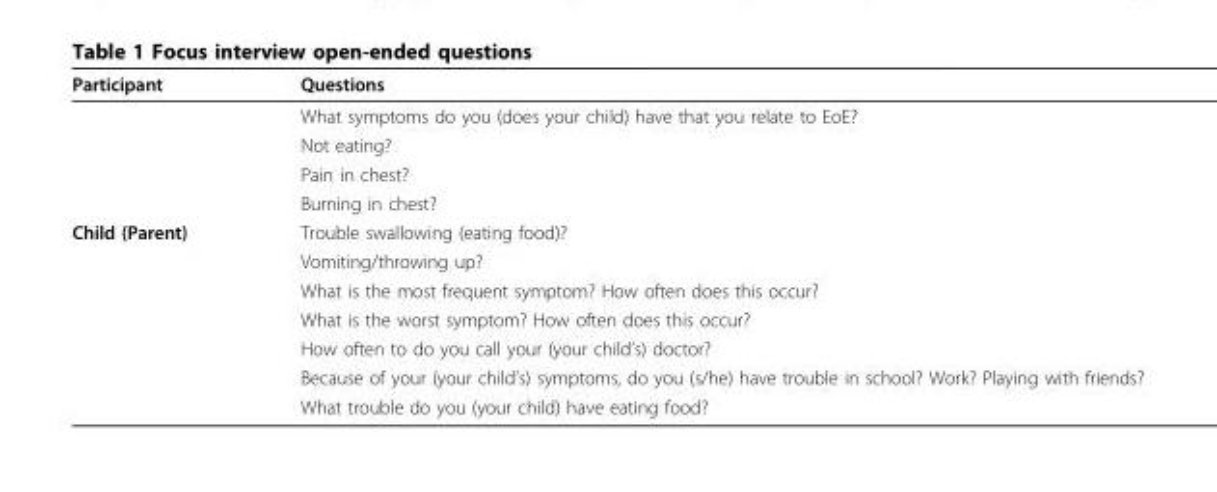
<table><thead><tr><td>Participant</td><td>Questions</td></tr></thead><tbody><tr><td></td><td>What symptoms do you (does your child) have that you relate to EoE?</td></tr><tr><td></td><td>Not eating?</td></tr><tr><td></td><td>Pain in chest?</td></tr><tr><td></td><td>Burning in chest?</td></tr><tr><td rowspan="7">Child (Parent)</td><td>Trouble swallowing (eating food)?</td></tr><tr><td>Vomiting/throwing up?</td></tr><tr><td>What is the most frequent symptom? How often does this occur?</td></tr><tr><td>What is the worst symptom? How often does this occur?</td></tr><tr><td>How often to do you call your (your child’s) doctor?</td></tr><tr><td>Because of your (your child’s) symptoms, do you (s/he) have trouble in school? Work? Playing with friends?</td></tr><tr><td>What trouble do you (your child) have eating food?</td></tr></tbody></table>